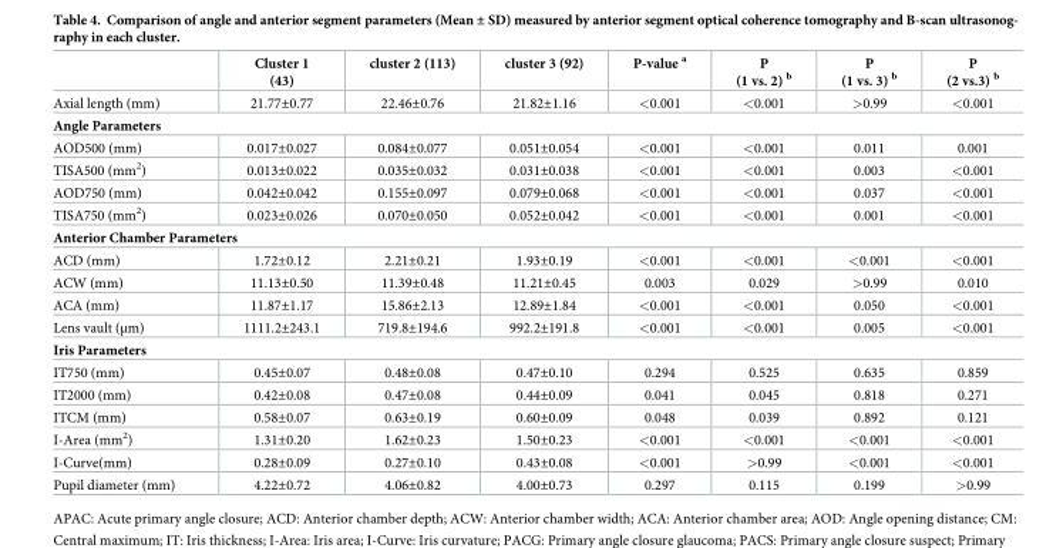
<table><thead><tr><td></td><td>Cluster 1 (43)</td><td>cluster 2 (113)</td><td>cluster 3 (92)</td><td>P-value <sup>a</sup></td><td>P (1 vs. 2) <sup>b</sup></td><td>P (1 vs. 3) <sup>b</sup></td><td>P (2 vs.3) <sup>b</sup></td></tr></thead><tbody><tr><td>Axial length (mm)</td><td>21.77±0.77</td><td>22.46±0.76</td><td>21.82±1.16</td><td>&lt;0.001</td><td>&lt;0.001</td><td>&gt;0.99</td><td>&lt;0.001</td></tr><tr><td colspan="8">Angle Parameters</td></tr><tr><td>AOD500 (mm)</td><td>0.017±0.027</td><td>0.084±0.077</td><td>0.051±0.054</td><td>&lt;0.001</td><td>&lt;0.001</td><td>0.011</td><td>0.001</td></tr><tr><td>TISA500 (mm<sup>2</sup>)</td><td>0.013±0.022</td><td>0.035±0.032</td><td>0.031±0.038</td><td>&lt;0.001</td><td>&lt;0.001</td><td>0.003</td><td>&lt;0.001</td></tr><tr><td>AOD750 (mm)</td><td>0.042±0.042</td><td>0.155±0.097</td><td>0.079±0.068</td><td>&lt;0.001</td><td>&lt;0.001</td><td>0.037</td><td>&lt;0.001</td></tr><tr><td>TISA750 (mm<sup>2</sup>)</td><td>0.023±0.026</td><td>0.070±0.050</td><td>0.052±0.042</td><td>&lt;0.001</td><td>&lt;0.001</td><td>0.001</td><td>&lt;0.001</td></tr><tr><td colspan="8">Anterior Chamber Parameters</td></tr><tr><td>ACD (mm)</td><td>1.72±0.12</td><td>2.21±0.21</td><td>1.93±0.19</td><td>&lt;0.001</td><td>&lt;0.001</td><td>&lt;0.001</td><td>&lt;0.001</td></tr><tr><td>ACW (mm)</td><td>11.13±0.50</td><td>11.39±0.48</td><td>11.21±0.45</td><td>0.003</td><td>0.029</td><td>&gt;0.99</td><td>0.010</td></tr><tr><td>ACA (mm)</td><td>11.87±1.17</td><td>15.86±2.13</td><td>12.89±1.84</td><td>&lt;0.001</td><td>&lt;0.001</td><td>0.050</td><td>&lt;0.001</td></tr><tr><td>Lens vault (μm)</td><td>1111.2±243.1</td><td>719.8±194.6</td><td>992.2±191.8</td><td>&lt;0.001</td><td>&lt;0.001</td><td>0.005</td><td>&lt;0.001</td></tr><tr><td colspan="8">Iris Parameters</td></tr><tr><td>IT750 (mm)</td><td>0.45±0.07</td><td>0.48±0.08</td><td>0.47±0.10</td><td>0.294</td><td>0.525</td><td>0.635</td><td>0.859</td></tr><tr><td>IT2000 (mm)</td><td>0.42±0.08</td><td>0.47±0.08</td><td>0.44±0.09</td><td>0.041</td><td>0.045</td><td>0.818</td><td>0.271</td></tr><tr><td>ITCM (mm)</td><td>0.58±0.07</td><td>0.63±0.19</td><td>0.60±0.09</td><td>0.048</td><td>0.039</td><td>0.892</td><td>0.121</td></tr><tr><td>I-Area (mm<sup>2</sup>)</td><td>1.31±0.20</td><td>1.62±0.23</td><td>1.50±0.23</td><td>&lt;0.001</td><td>&lt;0.001</td><td>&lt;0.001</td><td>&lt;0.001</td></tr><tr><td>I-Curve(mm)</td><td>0.28±0.09</td><td>0.27±0.10</td><td>0.43±0.08</td><td>&lt;0.001</td><td>&gt;0.99</td><td>&lt;0.001</td><td>&lt;0.001</td></tr><tr><td>Pupil diameter (mm)</td><td>4.22±0.72</td><td>4.06±0.82</td><td>4.00±0.73</td><td>0.297</td><td>0.115</td><td>0.199</td><td>&gt;0.99</td></tr></tbody></table>